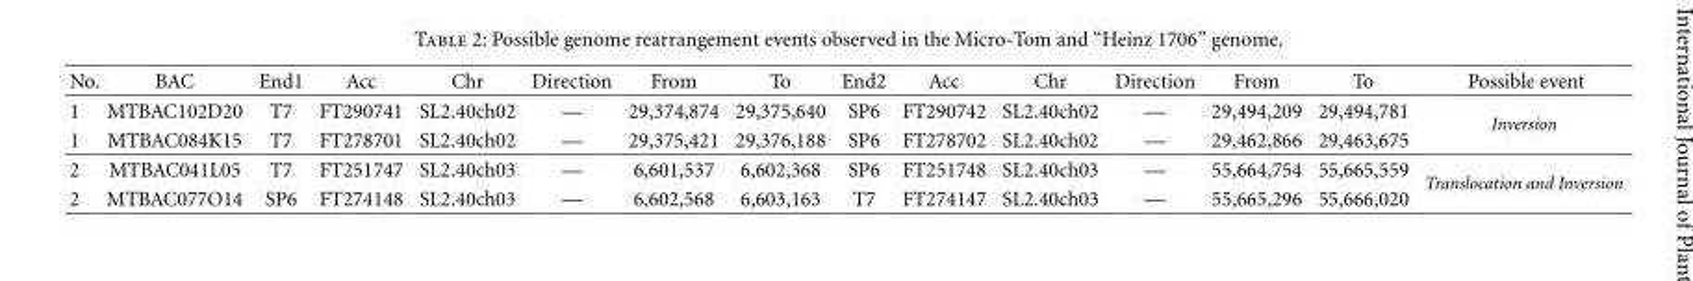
<table><thead><tr><td>No.</td><td>BAC</td><td>End1</td><td>Acc</td><td>Chr</td><td>Direction</td><td>From</td><td>To</td><td>End2</td><td>Acc</td><td>Chr</td><td>Direction</td><td>From</td><td>To</td><td>Possible event</td></tr></thead><tbody><tr><td>1</td><td>MTBAC102D20</td><td>T7</td><td>FT290741</td><td>SL2.40ch02</td><td>—</td><td>29,374,874</td><td>29,375,640</td><td>SP6</td><td>FT290742</td><td>SL2.40ch02</td><td>—</td><td>29,494,209</td><td>29,494,781</td><td rowspan="2">Inversion</td></tr><tr><td>1</td><td>MTBAC084K15</td><td>T7</td><td>FT278701</td><td>SL2.40ch02</td><td>—</td><td>29,375,421</td><td>29,376,188</td><td>SP6</td><td>FT278702</td><td>SL2.40ch02</td><td>—</td><td>29,462,866</td><td>29,463,675</td></tr><tr><td>2</td><td>MTBAC041L05</td><td>T7</td><td>FT251747</td><td>SL2.40ch03</td><td>—</td><td>6,601,537</td><td>6,602,368</td><td>SP6</td><td>FT251748</td><td>SL2.40ch03</td><td>—</td><td>55,664,754</td><td>55,665,559</td><td rowspan="2">Translocation and Inversion</td></tr><tr><td>2</td><td>MTBAC077O14</td><td>SP6</td><td>FT274148</td><td>SL2.40ch03</td><td>—</td><td>6,602,568</td><td>6,603,163</td><td>T7</td><td>FT274147</td><td>SL2.40ch03</td><td>—</td><td>55,665,296</td><td>55,666,020</td></tr></tbody></table>